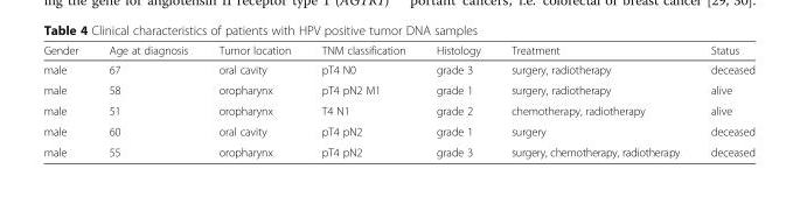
<table><thead><tr><td>Gender</td><td>Age at diagnosis</td><td>Tumor location</td><td>TNM classification</td><td>Histology</td><td>Treatment</td><td>Status</td></tr></thead><tbody><tr><td>male</td><td>67</td><td>oral cavity</td><td>pT4 N0</td><td>grade 3</td><td>surgery, radiotherapy</td><td>deceased</td></tr><tr><td>male</td><td>58</td><td>oropharynx</td><td>pT4 pN2 M1</td><td>grade 1</td><td>surgery, radiotherapy</td><td>alive</td></tr><tr><td>male</td><td>51</td><td>oropharynx</td><td>T4 N1</td><td>grade 2</td><td>chemotherapy, radiotherapy</td><td>alive</td></tr><tr><td>male</td><td>60</td><td>oral cavity</td><td>pT4 pN2</td><td>grade 1</td><td>surgery</td><td>deceased</td></tr><tr><td>male</td><td>55</td><td>oropharynx</td><td>pT4 pN2</td><td>grade 3</td><td>surgery, chemotherapy, radiotherapy</td><td>deceased</td></tr></tbody></table>